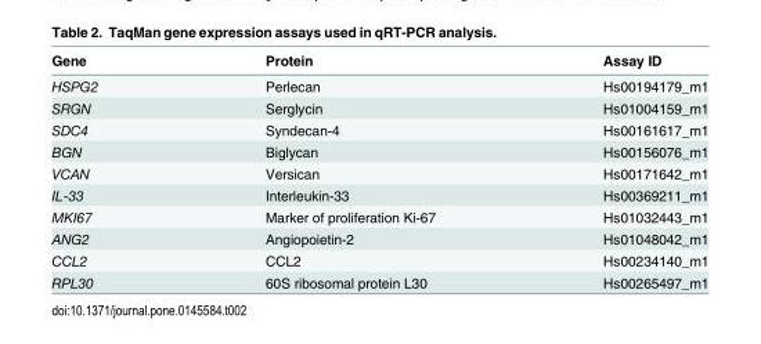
<table><thead><tr><td>Gene</td><td>Protein</td><td>Assay ID</td></tr></thead><tbody><tr><td>HSPG2</td><td>Perlecan</td><td>Hs00194179_m1</td></tr><tr><td>SRGN</td><td>Serglycin</td><td>Hs01004159_m1</td></tr><tr><td>SDC4</td><td>Syndecan-4</td><td>Hs00161617_m1</td></tr><tr><td>BGN</td><td>Biglycan</td><td>Hs00156076_m1</td></tr><tr><td>VCAN</td><td>Versican</td><td>Hs00171642_m1</td></tr><tr><td>IL-33</td><td>Interleukin-33</td><td>Hs00369211_m1</td></tr><tr><td>MKI67</td><td>Marker of proliferation Ki-67</td><td>Hs01032443_m1</td></tr><tr><td>ANG2</td><td>Angiopoietin-2</td><td>Hs01048042_m1</td></tr><tr><td>CCL2</td><td>CCL2</td><td>Hs00234140_m1</td></tr><tr><td>RPL30</td><td>60S ribosomal protein L30</td><td>Hs00265497_m1</td></tr></tbody></table>